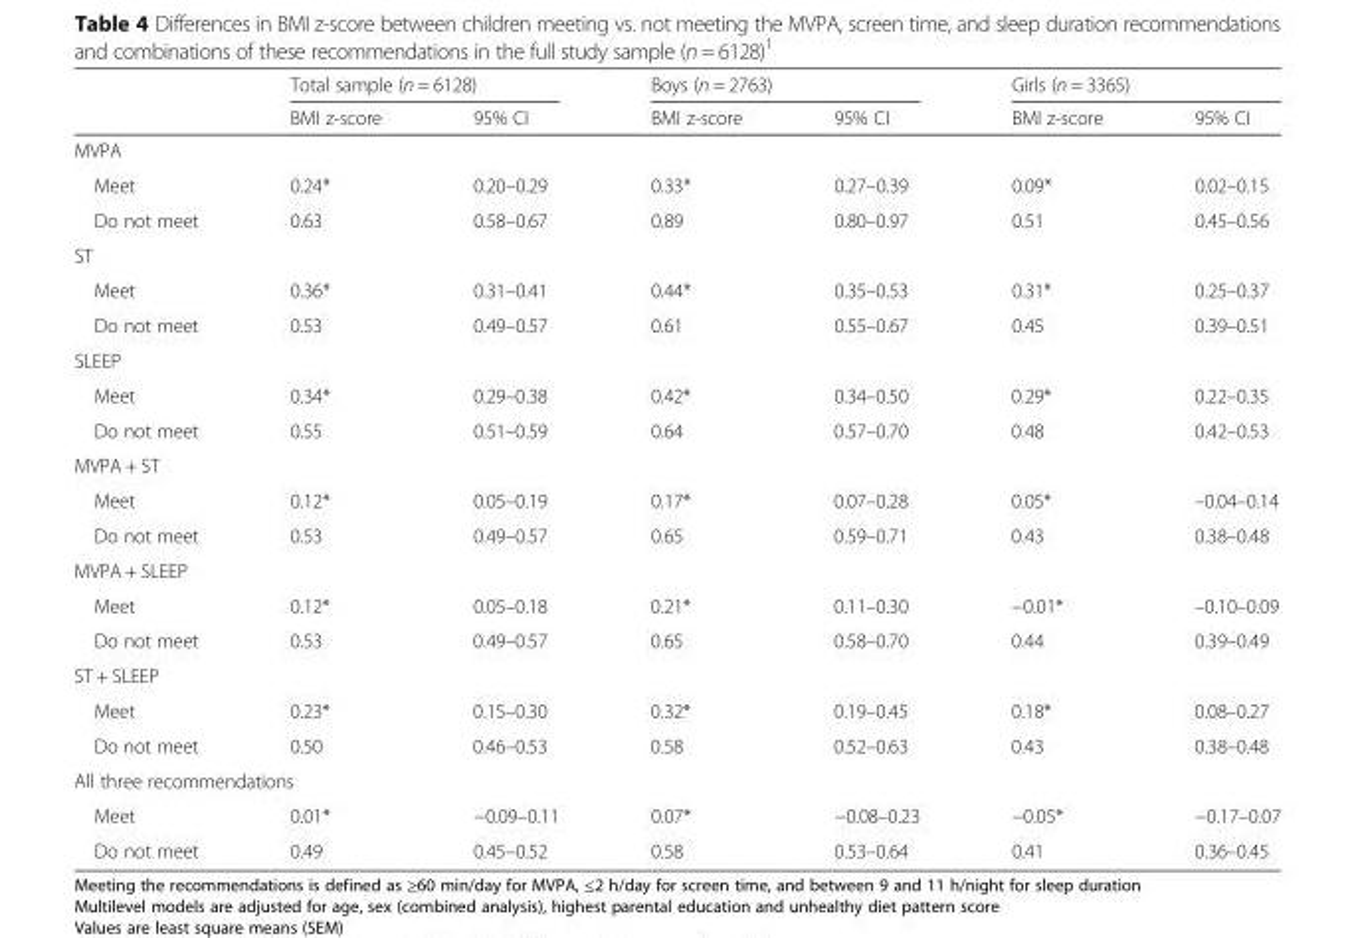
<table><thead><tr><td rowspan="2"></td><td colspan="2">Total sample (n = 6128)</td><td colspan="2">Boys (n = 2763)</td><td colspan="2">Girls (n = 3365)</td></tr><tr><td>BMI z-score</td><td>95% CI</td><td>BMI z-score</td><td>95% CI</td><td>BMI z-score</td><td>95% CI</td></tr></thead><tbody><tr><td colspan="7">MVPA</td></tr><tr><td>Meet</td><td>0.24*</td><td>0.20–0.29</td><td>0.33*</td><td>0.27–0.39</td><td>0.09*</td><td>0.02–0.15</td></tr><tr><td>Do not meet</td><td>0.63</td><td>0.58–0.67</td><td>0.89</td><td>0.80–0.97</td><td>0.51</td><td>0.45–0.56</td></tr><tr><td colspan="7">ST</td></tr><tr><td>Meet</td><td>0.36*</td><td>0.31–0.41</td><td>0.44*</td><td>0.35–0.53</td><td>0.31*</td><td>0.25–0.37</td></tr><tr><td>Do not meet</td><td>0.53</td><td>0.49–0.57</td><td>0.61</td><td>0.55–0.67</td><td>0.45</td><td>0.39–0.51</td></tr><tr><td colspan="7">SLEEP</td></tr><tr><td>Meet</td><td>0.34*</td><td>0.29–0.38</td><td>0.42*</td><td>0.34–0.50</td><td>0.29*</td><td>0.22–0.35</td></tr><tr><td>Do not meet</td><td>0.55</td><td>0.51–0.59</td><td>0.64</td><td>0.57–0.70</td><td>0.48</td><td>0.42–0.53</td></tr><tr><td colspan="7">MVPA + ST</td></tr><tr><td>Meet</td><td>0.12*</td><td>0.05–0.19</td><td>0.17*</td><td>0.07–0.28</td><td>0.05*</td><td>–0.04–0.14</td></tr><tr><td>Do not meet</td><td>0.53</td><td>0.49–0.57</td><td>0.65</td><td>0.59–0.71</td><td>0.43</td><td>0.38–0.48</td></tr><tr><td colspan="7">MVPA + SLEEP</td></tr><tr><td>Meet</td><td>0.12*</td><td>0.05–0.18</td><td>0.21*</td><td>0.11–0.30</td><td>−0.01*</td><td>–0.10–0.09</td></tr><tr><td>Do not meet</td><td>0.53</td><td>0.49–0.57</td><td>0.65</td><td>0.58–0.70</td><td>0.44</td><td>0.39–0.49</td></tr><tr><td colspan="7">ST + SLEEP</td></tr><tr><td>Meet</td><td>0.23*</td><td>0.15–0.30</td><td>0.32*</td><td>0.19–0.45</td><td>0.18*</td><td>0.08–0.27</td></tr><tr><td>Do not meet</td><td>0.50</td><td>0.46–0.53</td><td>0.58</td><td>0.52–0.63</td><td>0.43</td><td>0.38–0.48</td></tr><tr><td colspan="7">All three recommendations</td></tr><tr><td>Meet</td><td>0.01*</td><td>−0.09–0.11</td><td>0.07*</td><td>−0.08–0.23</td><td>−0.05*</td><td>−0.17–0.07</td></tr><tr><td>Do not meet</td><td>0.49</td><td>0.45–0.52</td><td>0.58</td><td>0.53–0.64</td><td>0.41</td><td>0.36–0.45</td></tr></tbody></table>